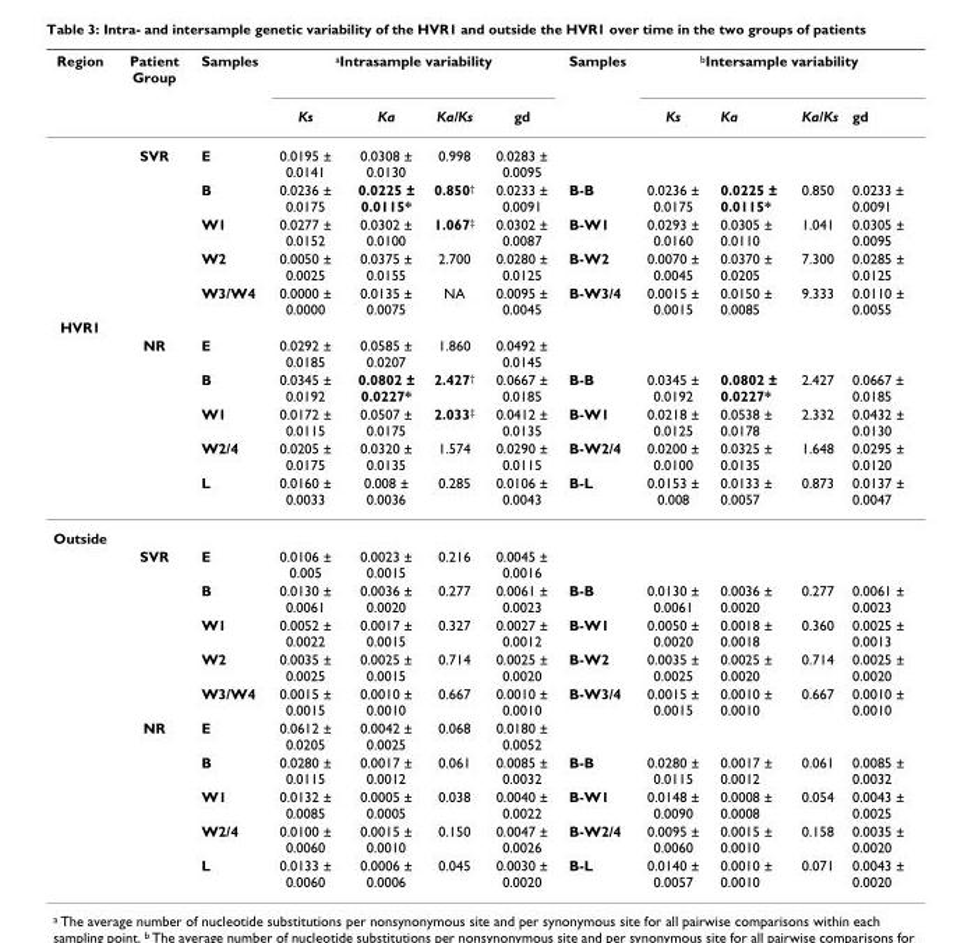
<table><thead><tr><td rowspan="2">Region</td><td rowspan="2">Patient Group</td><td rowspan="2">Samples</td><td colspan="4"><sup>a</sup>Intrasample variability</td><td rowspan="2">Samples</td><td colspan="4"><sup>b</sup>Intersample variability</td></tr><tr><td>Ks</td><td>Ka</td><td>Ka/Ks</td><td>gd</td><td>Ks</td><td>Ka</td><td>Ka/Ks</td><td>gd</td></tr></thead><tbody><tr><td></td><td>SVR</td><td>E</td><td>0.0195 ± 0.0141</td><td>0.0308 ± 0.0130</td><td>0.998</td><td>0.0283 ± 0.0095</td><td></td><td></td><td></td><td></td><td></td></tr><tr><td></td><td></td><td>B</td><td>0.0236 ± 0.0175</td><td>0.0225 ± 0.0115*</td><td>0.850<sup>†</sup></td><td>0.0233 ± 0.0091</td><td>B-B</td><td>0.0236 ± 0.0175</td><td>0.0225 ± 0.0115*</td><td>0.850</td><td>0.0233 ± 0.0091</td></tr><tr><td></td><td></td><td>W1</td><td>0.0277 ± 0.0152</td><td>0.0302 ± 0.0100</td><td>1.067<sup>‡</sup></td><td>0.0302 ± 0.0087</td><td>B-W1</td><td>0.0293 ± 0.0160</td><td>0.0305 ± 0.0110</td><td>1.041</td><td>0.0305 ± 0.0095</td></tr><tr><td></td><td></td><td>W2</td><td>0.0050 ± 0.0025</td><td>0.0375 ± 0.0155</td><td>2.700</td><td>0.0280 ± 0.0125</td><td>B-W2</td><td>0.0070 ± 0.0045</td><td>0.0370 ± 0.0205</td><td>7.300</td><td>0.0285 ± 0.0125</td></tr><tr><td></td><td></td><td>W3/W4</td><td>0.0000 ± 0.0000</td><td>0.0135 ± 0.0075</td><td>NA</td><td>0.0095 ± 0.0045</td><td>B-W3/4</td><td>0.0015 ± 0.0015</td><td>0.0150 ± 0.0085</td><td>9.333</td><td>0.0110 ± 0.0055</td></tr><tr><td colspan="12">HVR1</td></tr><tr><td></td><td>NR</td><td>E</td><td>0.0292 ± 0.0185</td><td>0.0585 ± 0.0207</td><td>1.860</td><td>0.0492 ± 0.0145</td><td></td><td></td><td></td><td></td><td></td></tr><tr><td></td><td></td><td>B</td><td>0.0345 ± 0.0192</td><td>0.0802 ± 0.0227*</td><td>2.427<sup>†</sup></td><td>0.0667 ± 0.0185</td><td>B-B</td><td>0.0345 ± 0.0192</td><td>0.0802 ± 0.0227*</td><td>2.427</td><td>0.0667 ± 0.0185</td></tr><tr><td></td><td></td><td>W1</td><td>0.0172 ± 0.0115</td><td>0.0507 ± 0.0175</td><td>2.033<sup>‡</sup></td><td>0.0412 ± 0.0135</td><td>B-W1</td><td>0.0218 ± 0.0125</td><td>0.0538 ± 0.0178</td><td>2.332</td><td>0.0432 ± 0.0130</td></tr><tr><td></td><td></td><td>W2/4</td><td>0.0205 ± 0.0175</td><td>0.0320 ± 0.0135</td><td>1.574</td><td>0.0290 ± 0.0115</td><td>B-W2/4</td><td>0.0200 ± 0.0100</td><td>0.0325 ± 0.0135</td><td>1.648</td><td>0.0295 ± 0.0120</td></tr><tr><td></td><td></td><td>L</td><td>0.0160 ± 0.0033</td><td>0.008 ± 0.0036</td><td>0.285</td><td>0.0106 ± 0.0043</td><td>B-L</td><td>0.0153 ± 0.008</td><td>0.0133 ± 0.0057</td><td>0.873</td><td>0.0137 ± 0.0047</td></tr><tr><td colspan="12">Outside</td></tr><tr><td></td><td>SVR</td><td>E</td><td>0.0106 ± 0.005</td><td>0.0023 ± 0.0015</td><td>0.216</td><td>0.0045 ± 0.0016</td><td></td><td></td><td></td><td></td><td></td></tr><tr><td></td><td></td><td>B</td><td>0.0130 ± 0.0061</td><td>0.0036 ± 0.0020</td><td>0.277</td><td>0.0061 ± 0.0023</td><td>B-B</td><td>0.0130 ± 0.0061</td><td>0.0036 ± 0.0020</td><td>0.277</td><td>0.0061 ± 0.0023</td></tr><tr><td></td><td></td><td>W1</td><td>0.0052 ± 0.0022</td><td>0.0017 ± 0.0015</td><td>0.327</td><td>0.0027 ± 0.0012</td><td>B-W1</td><td>0.0050 ± 0.0020</td><td>0.0018 ± 0.0018</td><td>0.360</td><td>0.0025 ± 0.0013</td></tr><tr><td></td><td></td><td>W2</td><td>0.0035 ± 0.0025</td><td>0.0025 ± 0.0015</td><td>0.714</td><td>0.0025 ± 0.0020</td><td>B-W2</td><td>0.0035 ± 0.0025</td><td>0.0025 ± 0.0020</td><td>0.714</td><td>0.0025 ± 0.0020</td></tr><tr><td></td><td></td><td>W3/W4</td><td>0.0015 ± 0.0015</td><td>0.0010 ± 0.0010</td><td>0.667</td><td>0.0010 ± 0.0010</td><td>B-W3/4</td><td>0.0015 ± 0.0015</td><td>0.0010 ± 0.0010</td><td>0.667</td><td>0.0010 ± 0.0010</td></tr><tr><td></td><td>NR</td><td>E</td><td>0.0612 ± 0.0205</td><td>0.0042 ± 0.0025</td><td>0.068</td><td>0.0180 ± 0.0052</td><td></td><td></td><td></td><td></td><td></td></tr><tr><td></td><td></td><td>B</td><td>0.0280 ± 0.0115</td><td>0.0017 ± 0.0012</td><td>0.061</td><td>0.0085 ± 0.0032</td><td>B-B</td><td>0.0280 ± 0.0115</td><td>0.0017 ± 0.0012</td><td>0.061</td><td>0.0085 ± 0.0032</td></tr><tr><td></td><td></td><td>W1</td><td>0.0132 ± 0.0085</td><td>0.0005 ± 0.0005</td><td>0.038</td><td>0.0040 ± 0.0022</td><td>B-W1</td><td>0.0148 ± 0.0090</td><td>0.0008 ± 0.0008</td><td>0.054</td><td>0.0043 ± 0.0025</td></tr><tr><td></td><td></td><td>W2/4</td><td>0.0100 ± 0.0060</td><td>0.0015 ± 0.0010</td><td>0.150</td><td>0.0047 ± 0.0026</td><td>B-W2/4</td><td>0.0095 ± 0.0060</td><td>0.0015 ± 0.0010</td><td>0.158</td><td>0.0035 ± 0.0020</td></tr><tr><td></td><td></td><td>L</td><td>0.0133 ± 0.0060</td><td>0.0006 ± 0.0006</td><td>0.045</td><td>0.0030 ± 0.0020</td><td>B-L</td><td>0.0140 ± 0.0057</td><td>0.0010 ± 0.0010</td><td>0.071</td><td>0.0043 ± 0.0020</td></tr></tbody></table>